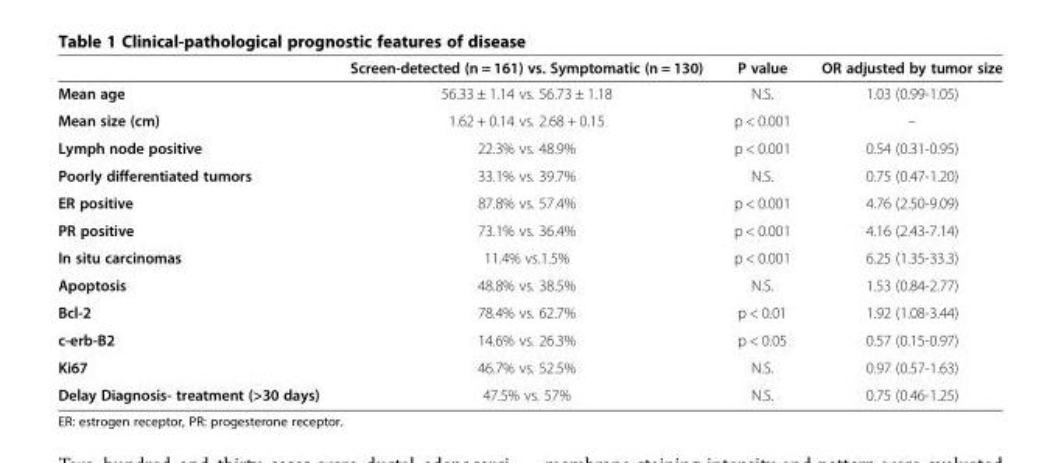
<table><thead><tr><td></td><td>Screen-detected (n = 161) vs. Symptomatic (n = 130)</td><td>P value</td><td>OR adjusted by tumor size</td></tr></thead><tbody><tr><td>Mean age</td><td>56.33 ± 1.14 vs. 56.73 ± 1.18</td><td>N.S.</td><td>1.03 (0.99-1.05)</td></tr><tr><td>Mean size (cm)</td><td>1.62 + 0.14 vs. 2.68 + 0.15</td><td>p &lt; 0.001</td><td>–</td></tr><tr><td>Lymph node positive</td><td>22.3% vs. 48.9%</td><td>p &lt; 0.001</td><td>0.54 (0.31-0.95)</td></tr><tr><td>Poorly differentiated tumors</td><td>33.1% vs. 39.7%</td><td>N.S.</td><td>0.75 (0.47-1.20)</td></tr><tr><td>ER positive</td><td>87.8% vs. 57.4%</td><td>p &lt; 0.001</td><td>4.76 (2.50-9.09)</td></tr><tr><td>PR positive</td><td>73.1% vs. 36.4%</td><td>p &lt; 0.001</td><td>4.16 (2.43-7.14)</td></tr><tr><td>In situ carcinomas</td><td>11.4% vs.1.5%</td><td>p &lt; 0.001</td><td>6.25 (1.35-33.3)</td></tr><tr><td>Apoptosis</td><td>48.8% vs. 38.5%</td><td>N.S.</td><td>1.53 (0.84-2.77)</td></tr><tr><td>Bcl-2</td><td>78.4% vs. 62.7%</td><td>p &lt; 0.01</td><td>1.92 (1.08-3.44)</td></tr><tr><td>c-erb-B2</td><td>14.6% vs. 26.3%</td><td>p &lt; 0.05</td><td>0.57 (0.15-0.97)</td></tr><tr><td>Ki67</td><td>46.7% vs. 52.5%</td><td>N.S.</td><td>0.97 (0.57-1.63)</td></tr><tr><td>Delay Diagnosis- treatment (&gt;30 days)</td><td>47.5% vs. 57%</td><td>N.S.</td><td>0.75 (0.46-1.25)</td></tr></tbody></table>